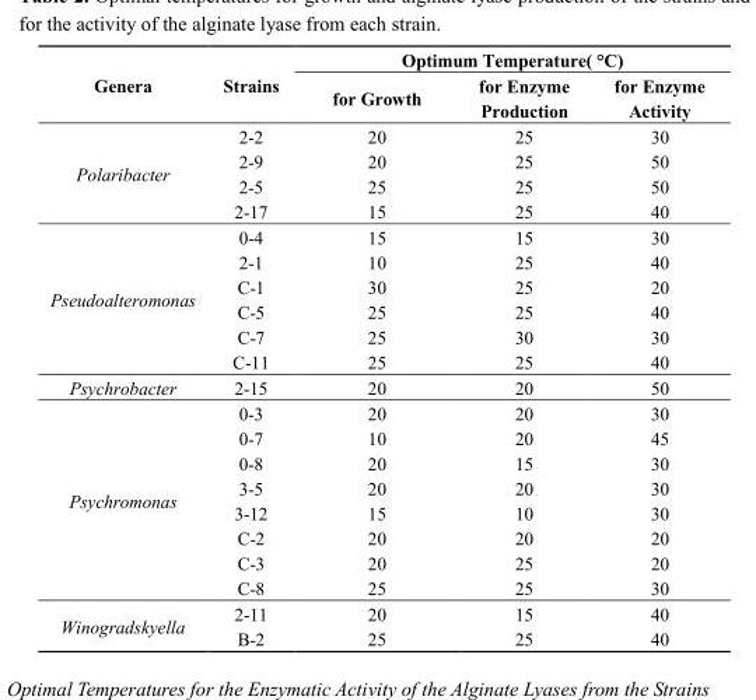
<table><thead><tr><td rowspan="2">Genera</td><td rowspan="2">Strains</td><td colspan="3">Optimum Temperature( °C)</td></tr><tr><td>for Growth</td><td>for Enzyme Production</td><td>for Enzyme Activity</td></tr></thead><tbody><tr><td rowspan="4">Polaribacter</td><td>2-2</td><td>20</td><td>25</td><td>30</td></tr><tr><td>2-9</td><td>20</td><td>25</td><td>50</td></tr><tr><td>2-5</td><td>25</td><td>25</td><td>50</td></tr><tr><td>2-17</td><td>15</td><td>25</td><td>40</td></tr><tr><td rowspan="6">Pseudoalteromonas</td><td>0-4</td><td>15</td><td>15</td><td>30</td></tr><tr><td>2-1</td><td>10</td><td>25</td><td>40</td></tr><tr><td>C-1</td><td>30</td><td>25</td><td>20</td></tr><tr><td>C-5</td><td>25</td><td>25</td><td>40</td></tr><tr><td>C-7</td><td>25</td><td>30</td><td>30</td></tr><tr><td>C-11</td><td>25</td><td>25</td><td>40</td></tr><tr><td>Psychrobacter</td><td>2-15</td><td>20</td><td>20</td><td>50</td></tr><tr><td rowspan="8">Psychromonas</td><td>0-3</td><td>20</td><td>20</td><td>30</td></tr><tr><td>0-7</td><td>10</td><td>20</td><td>45</td></tr><tr><td>0-8</td><td>20</td><td>15</td><td>30</td></tr><tr><td>3-5</td><td>20</td><td>20</td><td>30</td></tr><tr><td>3-12</td><td>15</td><td>10</td><td>30</td></tr><tr><td>C-2</td><td>20</td><td>20</td><td>20</td></tr><tr><td>C-3</td><td>20</td><td>25</td><td>20</td></tr><tr><td>C-8</td><td>25</td><td>25</td><td>30</td></tr><tr><td rowspan="2">Winogradskyella</td><td>2-11</td><td>20</td><td>15</td><td>40</td></tr><tr><td>B-2</td><td>25</td><td>25</td><td>40</td></tr></tbody></table>